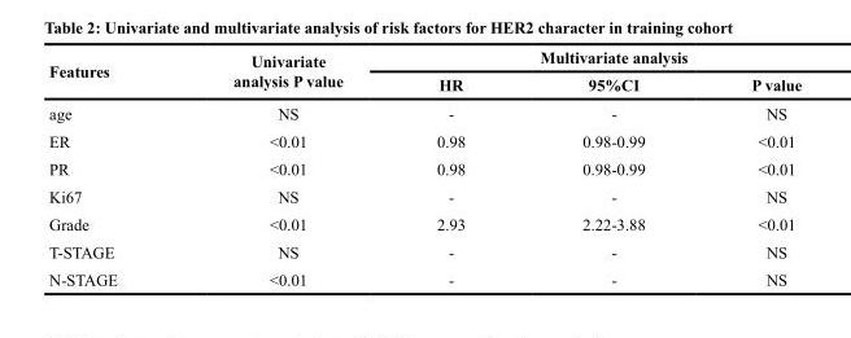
<table><thead><tr><td rowspan="2">Features</td><td rowspan="2">Univariate analysis P value</td><td colspan="3">Multivariate analysis</td></tr><tr><td>HR</td><td>95%CI</td><td>P value</td></tr></thead><tbody><tr><td>age</td><td>NS</td><td>-</td><td>-</td><td>NS</td></tr><tr><td>ER</td><td>&lt;0.01</td><td>0.98</td><td>0.98-0.99</td><td>&lt;0.01</td></tr><tr><td>PR</td><td>&lt;0.01</td><td>0.98</td><td>0.98-0.99</td><td>&lt;0.01</td></tr><tr><td>Ki67</td><td>NS</td><td>-</td><td>-</td><td>NS</td></tr><tr><td>Grade</td><td>&lt;0.01</td><td>2.93</td><td>2.22-3.88</td><td>&lt;0.01</td></tr><tr><td>T-STAGE</td><td>NS</td><td>-</td><td>-</td><td>NS</td></tr><tr><td>N-STAGE</td><td>&lt;0.01</td><td>-</td><td>-</td><td>NS</td></tr></tbody></table>